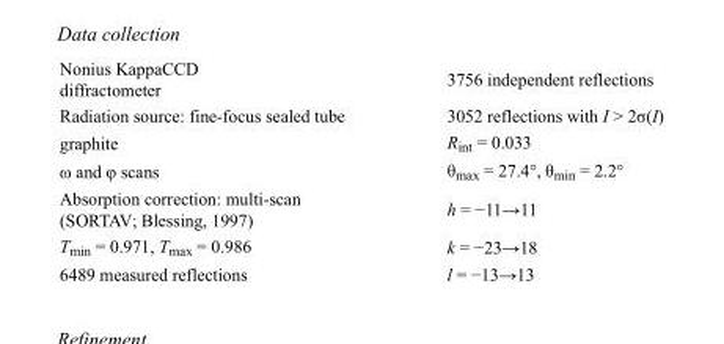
<table><tbody><tr><td>Nonius KappaCCD diffractometer</td><td>3756 independent reflections</td></tr><tr><td>Radiation source: fine-focus sealed tube</td><td>3052 reflections with I &gt; 2σ(I)</td></tr><tr><td>graphite</td><td>R<sub>int</sub> = 0.033</td></tr><tr><td>ω and φ scans</td><td>θ<sub>max</sub> = 27.4°, θ<sub>min</sub> = 2.2°</td></tr><tr><td>Absorption correction: multi-scan (SORTAV; Blessing, 1997)</td><td>h = −11→11</td></tr><tr><td>T<sub>min</sub> = 0.971, T<sub>max</sub> = 0.986</td><td>k = −23→18</td></tr><tr><td>6489 measured reflections</td><td>l = −13→13</td></tr></tbody></table>